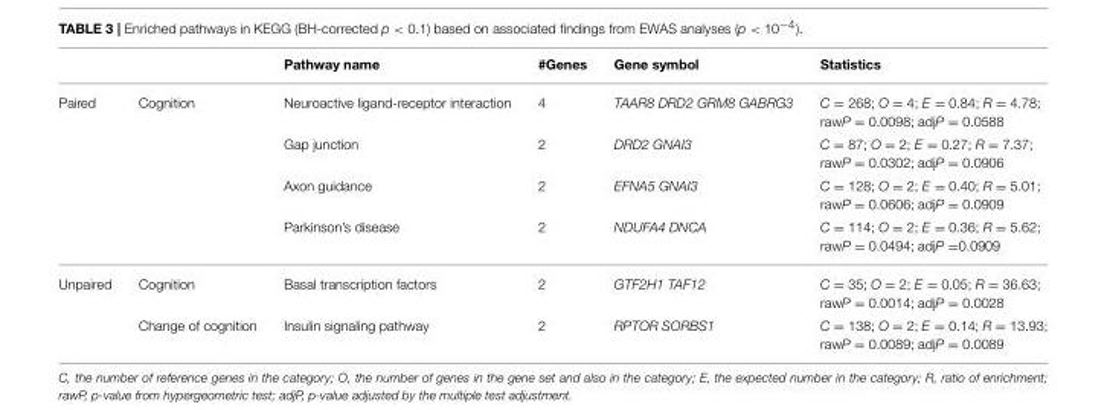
<table><thead><tr><td></td><td></td><td>Pathway name</td><td>#Genes</td><td>Gene symbol</td><td>Statistics</td></tr></thead><tbody><tr><td rowspan="4">Paired</td><td>Cognition</td><td>Neuroactive ligand-receptor interaction</td><td>4</td><td>TAAR8 DRD2 GRM8 GABRG3</td><td>C = 268; O = 4; E = 0.84; R = 4.78; rawP = 0.0098; adjP = 0.0588</td></tr><tr><td></td><td>Gap junction</td><td>2</td><td>DRD2 GNAI3</td><td>C = 87; O = 2; E = 0.27; R = 7.37; rawP = 0.0302; adjP = 0.0906</td></tr><tr><td></td><td>Axon guidance</td><td>2</td><td>EFNA5 GNAI3</td><td>C = 128; O = 2; E = 0.40; R = 5.01; rawP = 0.0606; adjP = 0.0909</td></tr><tr><td></td><td>Parkinson’s disease</td><td>2</td><td>NDUFA4 DNCA</td><td>C = 114; O = 2; E = 0.36; R = 5.62; rawP = 0.0494; adjP =0.0909</td></tr><tr><td rowspan="2">Unpaired</td><td>Cognition</td><td>Basal transcription factors</td><td>2</td><td>GTF2H1 TAF12</td><td>C = 35; O = 2; E = 0.05; R = 36.63; rawP = 0.0014; adjP = 0.0028</td></tr><tr><td>Change of cognition</td><td>Insulin signaling pathway</td><td>2</td><td>RPTOR SORBS1</td><td>C = 138; O = 2; E = 0.14; R = 13.93; rawP = 0.0089; adjP = 0.0089</td></tr></tbody></table>